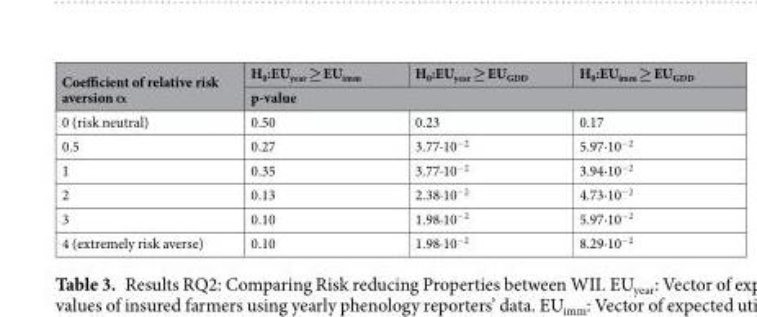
<table><thead><tr><td rowspan="2">Coefficient of relative risk aversion α</td><td>H<sub>0</sub>:EU<sub>year</sub> ≥ EU<sub>imm</sub></td><td>H<sub>0</sub>:EU<sub>year</sub> ≥ EU<sub>GDD</sub></td><td>H<sub>0</sub>:EU<sub>imm</sub> ≥ EU<sub>GDD</sub></td></tr><tr><td colspan="3">p-value</td></tr></thead><tbody><tr><td>0 (risk neutral)</td><td>0.50</td><td>0.23</td><td>0.17</td></tr><tr><td>0.5</td><td>0.27</td><td>3.77·10<sup>−2</sup></td><td>5.97·10<sup>−2</sup></td></tr><tr><td>1</td><td>0.35</td><td>3.77·10<sup>−2</sup></td><td>3.94·10<sup>−2</sup></td></tr><tr><td>2</td><td>0.13</td><td>2.38·10<sup>−2</sup></td><td>4.73·10<sup>−2</sup></td></tr><tr><td>3</td><td>0.10</td><td>1.98·10<sup>−2</sup></td><td>5.97·10<sup>−2</sup></td></tr><tr><td>4 (extremely risk averse)</td><td>0.10</td><td>1.98·10<sup>−2</sup></td><td>8.29·10<sup>−2</sup></td></tr></tbody></table>